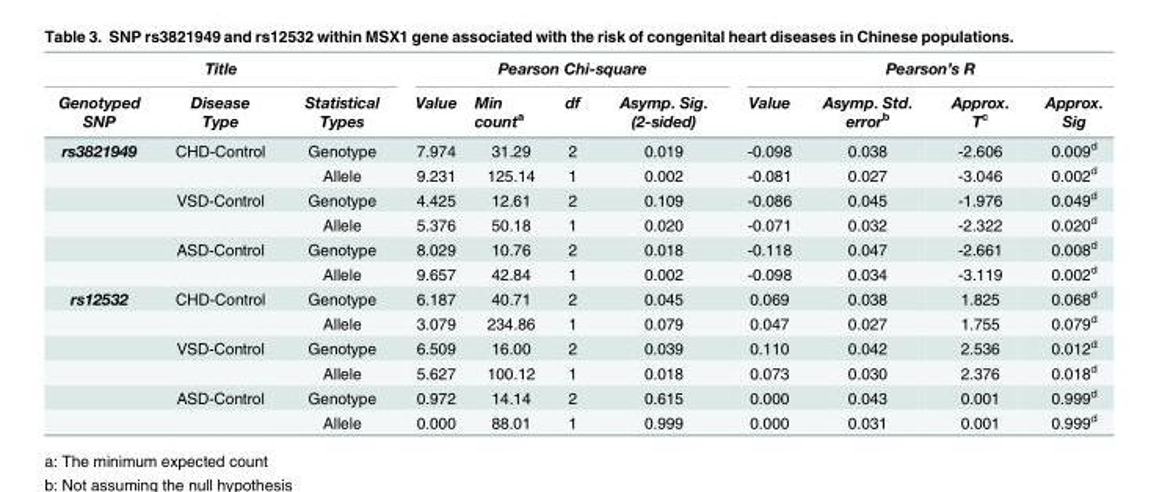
<table><thead><tr><td colspan="3">Title</td><td colspan="4">Pearson Chi-square</td><td colspan="4">Pearson’s R</td></tr><tr><td>Genotyped SNP</td><td>Disease Type</td><td>Statistical Types</td><td>Value</td><td>Min count<sup>a</sup></td><td>df</td><td>Asymp. Sig. (2-sided)</td><td>Value</td><td>Asymp. Std. error<sup>b</sup></td><td>Approx. T<sup>c</sup></td><td>Approx. Sig</td></tr></thead><tbody><tr><td rowspan="6">rs3821949</td><td>CHD-Control</td><td>Genotype</td><td>7.974</td><td>31.29</td><td>2</td><td>0.019</td><td>-0.098</td><td>0.038</td><td>-2.606</td><td>0.009<sup>d</sup></td></tr><tr><td></td><td>Allele</td><td>9.231</td><td>125.14</td><td>1</td><td>0.002</td><td>-0.081</td><td>0.027</td><td>-3.046</td><td>0.002<sup>d</sup></td></tr><tr><td>VSD-Control</td><td>Genotype</td><td>4.425</td><td>12.61</td><td>2</td><td>0.109</td><td>-0.086</td><td>0.045</td><td>-1.976</td><td>0.049<sup>d</sup></td></tr><tr><td></td><td>Allele</td><td>5.376</td><td>50.18</td><td>1</td><td>0.020</td><td>-0.071</td><td>0.032</td><td>-2.322</td><td>0.020<sup>d</sup></td></tr><tr><td>ASD-Control</td><td>Genotype</td><td>8.029</td><td>10.76</td><td>2</td><td>0.018</td><td>-0.118</td><td>0.047</td><td>-2.661</td><td>0.008<sup>d</sup></td></tr><tr><td></td><td>Allele</td><td>9.657</td><td>42.84</td><td>1</td><td>0.002</td><td>-0.098</td><td>0.034</td><td>-3.119</td><td>0.002<sup>d</sup></td></tr><tr><td rowspan="6">rs12532</td><td>CHD-Control</td><td>Genotype</td><td>6.187</td><td>40.71</td><td>2</td><td>0.045</td><td>0.069</td><td>0.038</td><td>1.825</td><td>0.068<sup>d</sup></td></tr><tr><td></td><td>Allele</td><td>3.079</td><td>234.86</td><td>1</td><td>0.079</td><td>0.047</td><td>0.027</td><td>1.755</td><td>0.079<sup>d</sup></td></tr><tr><td>VSD-Control</td><td>Genotype</td><td>6.509</td><td>16.00</td><td>2</td><td>0.039</td><td>0.110</td><td>0.042</td><td>2.536</td><td>0.012<sup>d</sup></td></tr><tr><td></td><td>Allele</td><td>5.627</td><td>100.12</td><td>1</td><td>0.018</td><td>0.073</td><td>0.030</td><td>2.376</td><td>0.018<sup>d</sup></td></tr><tr><td>ASD-Control</td><td>Genotype</td><td>0.972</td><td>14.14</td><td>2</td><td>0.615</td><td>0.000</td><td>0.043</td><td>0.001</td><td>0.999<sup>d</sup></td></tr><tr><td></td><td>Allele</td><td>0.000</td><td>88.01</td><td>1</td><td>0.999</td><td>0.000</td><td>0.031</td><td>0.001</td><td>0.999<sup>d</sup></td></tr></tbody></table>